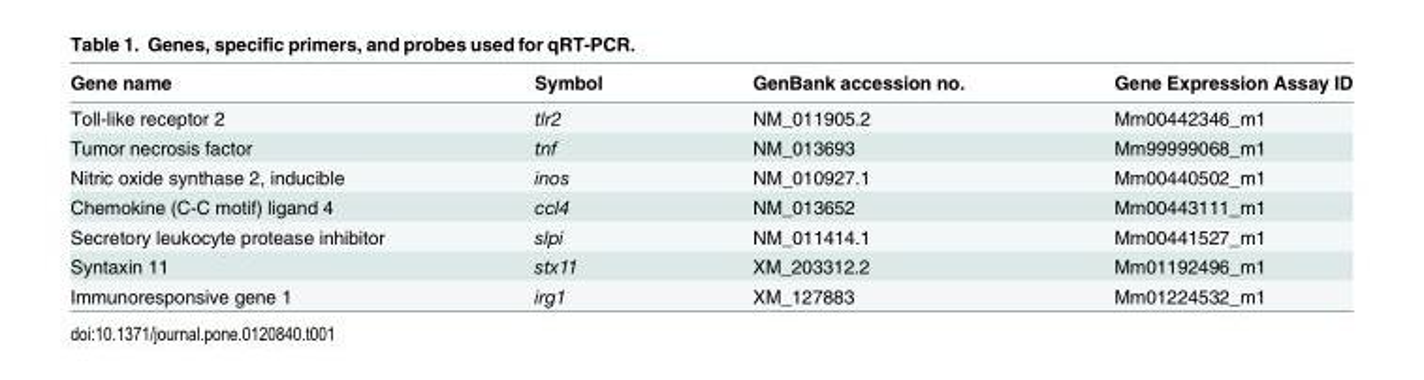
<table><thead><tr><td>Gene name</td><td>Symbol</td><td>GenBank accession no.</td><td>Gene Expression Assay ID</td></tr></thead><tbody><tr><td>Toll-like receptor 2</td><td>tlr2</td><td>NM_011905.2</td><td>Mm00442346_m1</td></tr><tr><td>Tumor necrosis factor</td><td>tnf</td><td>NM_013693</td><td>Mm99999068_m1</td></tr><tr><td>Nitric oxide synthase 2, inducible</td><td>inos</td><td>NM_010927.1</td><td>Mm00440502_m1</td></tr><tr><td>Chemokine (C-C motif) ligand 4</td><td>ccl4</td><td>NM_013652</td><td>Mm00443111_m1</td></tr><tr><td>Secretory leukocyte protease inhibitor</td><td>slpi</td><td>NM_011414.1</td><td>Mm00441527_m1</td></tr><tr><td>Syntaxin 11</td><td>stx11</td><td>XM_203312.2</td><td>Mm01192496_m1</td></tr><tr><td>Immunoresponsive gene 1</td><td>irg1</td><td>XM_127883</td><td>Mm01224532_m1</td></tr></tbody></table>